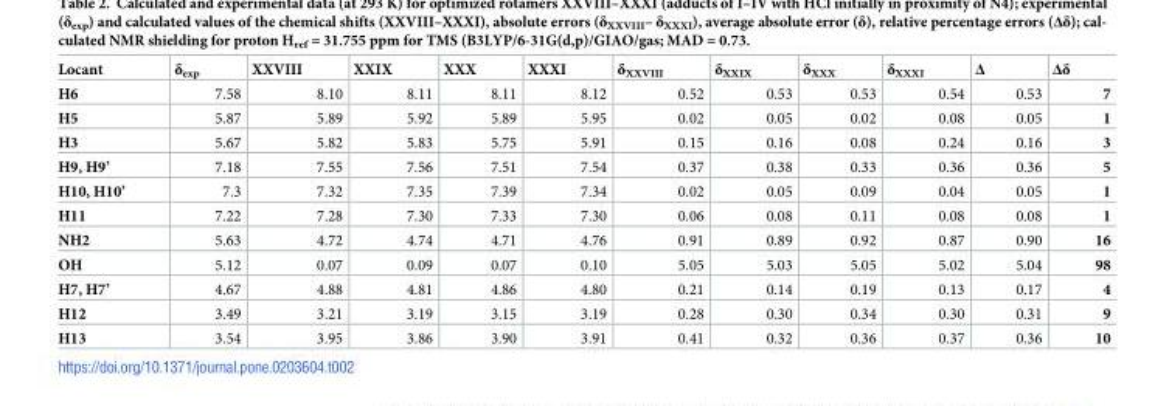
<table><thead><tr><td>Locant</td><td>δ<sub>exp</sub></td><td>XXVIII</td><td>XXIX</td><td>XXX</td><td>XXXI</td><td>δ<sub>XXVIII</sub></td><td>δ<sub>XXIX</sub></td><td>δ<sub>XXX</sub></td><td>δ<sub>XXXI</sub></td><td>Δ</td><td>Δδ</td></tr></thead><tbody><tr><td>H6</td><td>7.58</td><td>8.10</td><td>8.11</td><td>8.11</td><td>8.12</td><td>0.52</td><td>0.53</td><td>0.53</td><td>0.54</td><td>0.53</td><td>7</td></tr><tr><td>H5</td><td>5.87</td><td>5.89</td><td>5.92</td><td>5.89</td><td>5.95</td><td>0.02</td><td>0.05</td><td>0.02</td><td>0.08</td><td>0.05</td><td>1</td></tr><tr><td>H3</td><td>5.67</td><td>5.82</td><td>5.83</td><td>5.75</td><td>5.91</td><td>0.15</td><td>0.16</td><td>0.08</td><td>0.24</td><td>0.16</td><td>3</td></tr><tr><td>H9, H9’</td><td>7.18</td><td>7.55</td><td>7.56</td><td>7.51</td><td>7.54</td><td>0.37</td><td>0.38</td><td>0.33</td><td>0.36</td><td>0.36</td><td>5</td></tr><tr><td>H10, H10’</td><td>7.3</td><td>7.32</td><td>7.35</td><td>7.39</td><td>7.34</td><td>0.02</td><td>0.05</td><td>0.09</td><td>0.04</td><td>0.05</td><td>1</td></tr><tr><td>H11</td><td>7.22</td><td>7.28</td><td>7.30</td><td>7.33</td><td>7.30</td><td>0.06</td><td>0.08</td><td>0.11</td><td>0.08</td><td>0.08</td><td>1</td></tr><tr><td>NH2</td><td>5.63</td><td>4.72</td><td>4.74</td><td>4.71</td><td>4.76</td><td>0.91</td><td>0.89</td><td>0.92</td><td>0.87</td><td>0.90</td><td>16</td></tr><tr><td>OH</td><td>5.12</td><td>0.07</td><td>0.09</td><td>0.07</td><td>0.10</td><td>5.05</td><td>5.03</td><td>5.05</td><td>5.02</td><td>5.04</td><td>98</td></tr><tr><td>H7, H7’</td><td>4.67</td><td>4.88</td><td>4.81</td><td>4.86</td><td>4.80</td><td>0.21</td><td>0.14</td><td>0.19</td><td>0.13</td><td>0.17</td><td>4</td></tr><tr><td>H12</td><td>3.49</td><td>3.21</td><td>3.19</td><td>3.15</td><td>3.19</td><td>0.28</td><td>0.30</td><td>0.34</td><td>0.30</td><td>0.31</td><td>9</td></tr><tr><td>H13</td><td>3.54</td><td>3.95</td><td>3.86</td><td>3.90</td><td>3.91</td><td>0.41</td><td>0.32</td><td>0.36</td><td>0.37</td><td>0.36</td><td>10</td></tr></tbody></table>